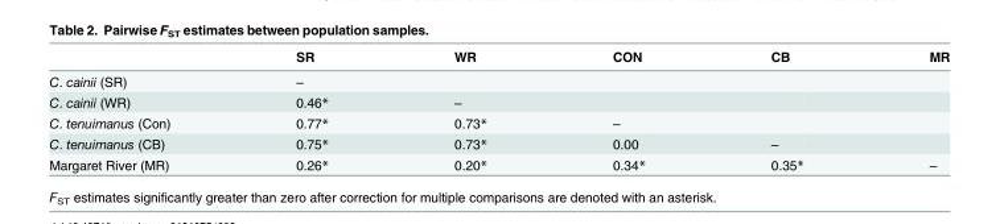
<table><thead><tr><td></td><td>SR</td><td>WR</td><td>CON</td><td>CB</td><td>MR</td></tr></thead><tbody><tr><td>C. cainii (SR)</td><td>–</td><td></td><td></td><td></td><td></td></tr><tr><td>C. cainii (WR)</td><td>0.46*</td><td>–</td><td></td><td></td><td></td></tr><tr><td>C. tenuimanus (Con)</td><td>0.77*</td><td>0.73*</td><td>–</td><td></td><td></td></tr><tr><td>C. tenuimanus (CB)</td><td>0.75*</td><td>0.73*</td><td>0.00</td><td>–</td><td></td></tr><tr><td>Margaret River (MR)</td><td>0.26*</td><td>0.20*</td><td>0.34*</td><td>0.35*</td><td>–</td></tr></tbody></table>